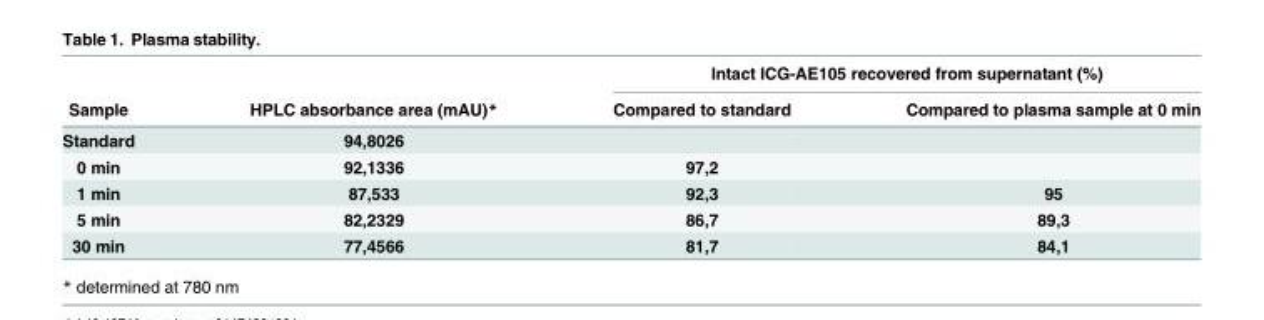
<table><thead><tr><td rowspan="2">Sample</td><td rowspan="2">HPLC absorbance area (mAU)*</td><td colspan="2">Intact ICG-AE105 recovered from supernatant (%)</td></tr><tr><td>Compared to standard</td><td>Compared to plasma sample at 0 min</td></tr></thead><tbody><tr><td>Standard</td><td>94,8026</td><td></td><td></td></tr><tr><td>0 min</td><td>92,1336</td><td>97,2</td><td></td></tr><tr><td>1 min</td><td>87,533</td><td>92,3</td><td>95</td></tr><tr><td>5 min</td><td>82,2329</td><td>86,7</td><td>89,3</td></tr><tr><td>30 min</td><td>77,4566</td><td>81,7</td><td>84,1</td></tr></tbody></table>